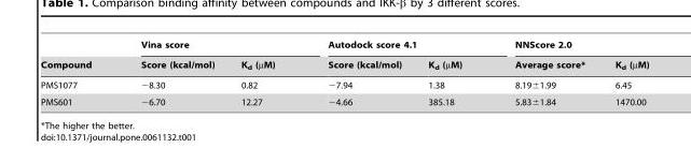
<table><thead><tr><td rowspan="2">Compound</td><td colspan="2">Vina score</td><td colspan="2">Autodock score 4.1</td><td colspan="2">NNScore 2.0</td></tr><tr><td>Score (kcal/mol)</td><td>K<sub>d</sub> (µM)</td><td>Score (kcal/mol)</td><td>K<sub>d</sub> (µM)</td><td>Average score*</td><td>K<sub>d</sub> (µM)</td></tr></thead><tbody><tr><td>PMS1077</td><td>−8.30</td><td>0.82</td><td>−7.94</td><td>1.38</td><td>8.19±1.99</td><td>6.45</td></tr><tr><td>PMS601</td><td>−6.70</td><td>12.27</td><td>−4.66</td><td>385.18</td><td>5.83±1.84</td><td>1470.00</td></tr></tbody></table>